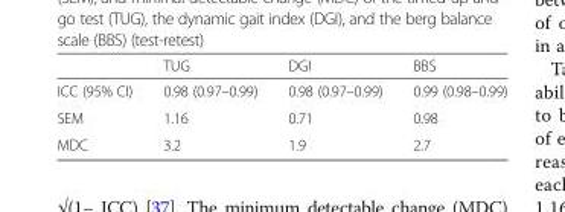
<table><thead><tr><td></td><td>TUG</td><td>DGI</td><td>BBS</td></tr></thead><tbody><tr><td>ICC (95% CI)</td><td>0.98 (0.97–0.99)</td><td>0.98 (0.97–0.99)</td><td>0.99 (0.98–0.99)</td></tr><tr><td>SEM</td><td>1.16</td><td>0.71</td><td>0.98</td></tr><tr><td>MDC</td><td>3.2</td><td>1.9</td><td>2.7</td></tr></tbody></table>